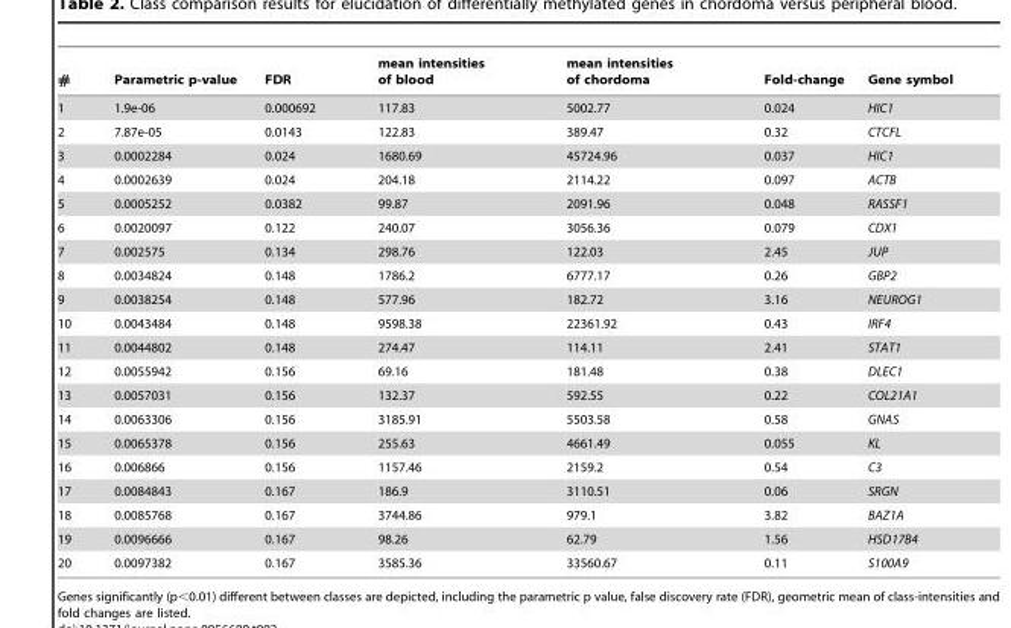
<table><thead><tr><td>#</td><td>Parametric p-value</td><td>FDR</td><td>mean intensities of blood</td><td>mean intensities of chordoma</td><td>Fold-change</td><td>Gene symbol</td></tr></thead><tbody><tr><td>1</td><td>1.9e-06</td><td>0.000692</td><td>117.83</td><td>5002.77</td><td>0.024</td><td>HIC1</td></tr><tr><td>2</td><td>7.87e-05</td><td>0.0143</td><td>122.83</td><td>389.47</td><td>0.32</td><td>CTCFL</td></tr><tr><td>3</td><td>0.0002284</td><td>0.024</td><td>1680.69</td><td>45724.96</td><td>0.037</td><td>HIC1</td></tr><tr><td>4</td><td>0.0002639</td><td>0.024</td><td>204.18</td><td>2114.22</td><td>0.097</td><td>ACTB</td></tr><tr><td>5</td><td>0.0005252</td><td>0.0382</td><td>99.87</td><td>2091.96</td><td>0.048</td><td>RASSF1</td></tr><tr><td>6</td><td>0.0020097</td><td>0.122</td><td>240.07</td><td>3056.36</td><td>0.079</td><td>CDX1</td></tr><tr><td>7</td><td>0.002575</td><td>0.134</td><td>298.76</td><td>122.03</td><td>2.45</td><td>JUP</td></tr><tr><td>8</td><td>0.0034824</td><td>0.148</td><td>1786.2</td><td>6777.17</td><td>0.26</td><td>GBP2</td></tr><tr><td>9</td><td>0.0038254</td><td>0.148</td><td>577.96</td><td>182.72</td><td>3.16</td><td>NEUROG1</td></tr><tr><td>10</td><td>0.0043484</td><td>0.148</td><td>9598.38</td><td>22361.92</td><td>0.43</td><td>IRF4</td></tr><tr><td>11</td><td>0.0044802</td><td>0.148</td><td>274.47</td><td>114.11</td><td>2.41</td><td>STAT1</td></tr><tr><td>12</td><td>0.0055942</td><td>0.156</td><td>69.16</td><td>181.48</td><td>0.38</td><td>DLEC1</td></tr><tr><td>13</td><td>0.0057031</td><td>0.156</td><td>132.37</td><td>592.55</td><td>0.22</td><td>COL21A1</td></tr><tr><td>14</td><td>0.0063306</td><td>0.156</td><td>3185.91</td><td>5503.58</td><td>0.58</td><td>GNAS</td></tr><tr><td>15</td><td>0.0065378</td><td>0.156</td><td>255.63</td><td>4661.49</td><td>0.055</td><td>KL</td></tr><tr><td>16</td><td>0.006866</td><td>0.156</td><td>1157.46</td><td>2159.2</td><td>0.54</td><td>C3</td></tr><tr><td>17</td><td>0.0084843</td><td>0.167</td><td>186.9</td><td>3110.51</td><td>0.06</td><td>SRGN</td></tr><tr><td>18</td><td>0.0085768</td><td>0.167</td><td>3744.86</td><td>979.1</td><td>3.82</td><td>BAZ1A</td></tr><tr><td>19</td><td>0.0096666</td><td>0.167</td><td>98.26</td><td>62.79</td><td>1.56</td><td>HSD17B4</td></tr><tr><td>20</td><td>0.0097382</td><td>0.167</td><td>3585.36</td><td>33560.67</td><td>0.11</td><td>S100A9</td></tr></tbody></table>